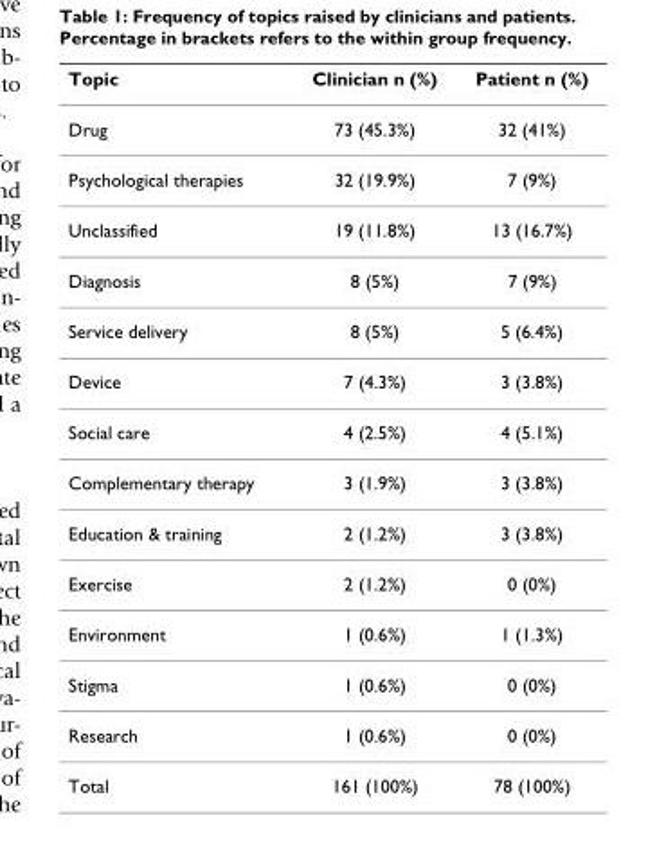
<table><thead><tr><td>Topic</td><td>Clinician n (%)</td><td>Patient n (%)</td></tr></thead><tbody><tr><td>Drug</td><td>73 (45.3%)</td><td>32 (41%)</td></tr><tr><td>Psychological therapies</td><td>32 (19.9%)</td><td>7 (9%)</td></tr><tr><td>Unclassified</td><td>19 (11.8%)</td><td>13 (16.7%)</td></tr><tr><td>Diagnosis</td><td>8 (5%)</td><td>7 (9%)</td></tr><tr><td>Service delivery</td><td>8 (5%)</td><td>5 (6.4%)</td></tr><tr><td>Device</td><td>7 (4.3%)</td><td>3 (3.8%)</td></tr><tr><td>Social care</td><td>4 (2.5%)</td><td>4 (5.1%)</td></tr><tr><td>Complementary therapy</td><td>3 (1.9%)</td><td>3 (3.8%)</td></tr><tr><td>Education &amp; training</td><td>2 (1.2%)</td><td>3 (3.8%)</td></tr><tr><td>Exercise</td><td>2 (1.2%)</td><td>0 (0%)</td></tr><tr><td>Environment</td><td>1 (0.6%)</td><td>1 (1.3%)</td></tr><tr><td>Stigma</td><td>1 (0.6%)</td><td>0 (0%)</td></tr><tr><td>Research</td><td>1 (0.6%)</td><td>0 (0%)</td></tr><tr><td>Total</td><td>161 (100%)</td><td>78 (100%)</td></tr></tbody></table>